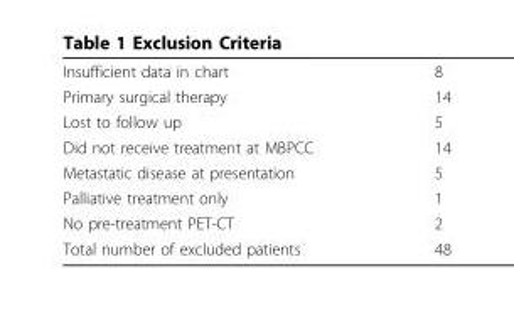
<table><tbody><tr><td>Insufficient data in chart</td><td>8</td></tr><tr><td>Primary surgical therapy</td><td>14</td></tr><tr><td>Lost to follow up</td><td>5</td></tr><tr><td>Did not receive treatment at MBPCC</td><td>14</td></tr><tr><td>Metastatic disease at presentation</td><td>5</td></tr><tr><td>Palliative treatment only</td><td>1</td></tr><tr><td>No pre-treatment PET-CT</td><td>2</td></tr><tr><td>Total number of excluded patients</td><td>48</td></tr></tbody></table>